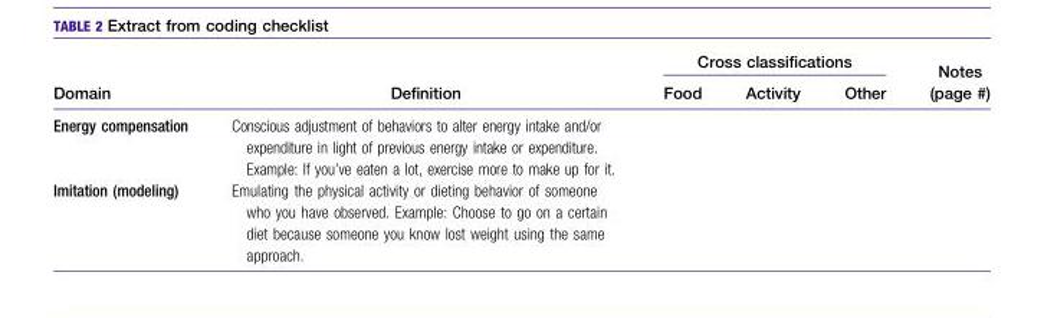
<table><thead><tr><td rowspan="2">Domain</td><td rowspan="2">Definition</td><td colspan="3">Cross classifications</td><td rowspan="2">Notes (page #)</td></tr><tr><td>Food</td><td>Activity</td><td>Other</td></tr></thead><tbody><tr><td>Energy compensation</td><td>Conscious adjustment of behaviors to alter energy intake and/or expenditure in light of previous energy intake or expenditure. Example: If you’ve eaten a lot, exercise more to make up for it.</td><td></td><td></td><td></td><td></td></tr><tr><td>Imitation (modeling)</td><td>Emulating the physical activity or dieting behavior of someone who you have observed. Example: Choose to go on a certain diet because someone you know lost weight using the same approach.</td><td></td><td></td><td></td><td></td></tr></tbody></table>